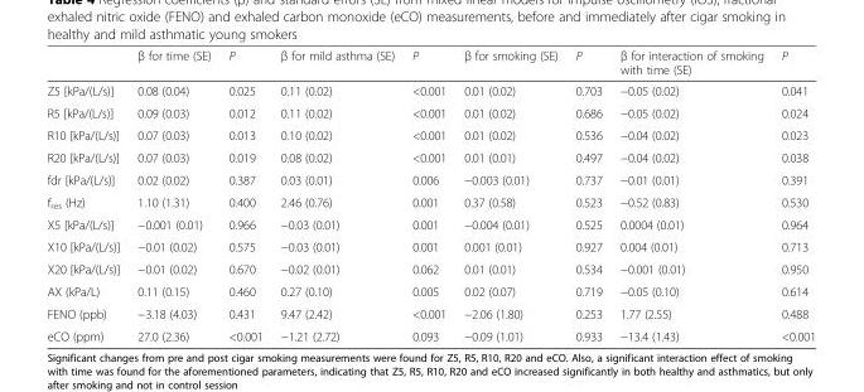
<table><thead><tr><td></td><td>β for time (SE)</td><td>P</td><td>β for mild asthma (SE)</td><td>P</td><td>β for smoking (SE)</td><td>P</td><td>β for interaction of smoking with time (SE)</td><td>P</td></tr></thead><tbody><tr><td>Z5 [kPa/(L/s)]</td><td>0.08 (0.04)</td><td>0.025</td><td>0.11 (0.02)</td><td>&lt;0.001</td><td>0.01 (0.02)</td><td>0.703</td><td>−0.05 (0.02)</td><td>0.041</td></tr><tr><td>R5 [kPa/(L/s)]</td><td>0.09 (0.03)</td><td>0.012</td><td>0.11 (0.02)</td><td>&lt;0.001</td><td>0.01 (0.02)</td><td>0.686</td><td>−0.05 (0.02)</td><td>0.024</td></tr><tr><td>R10 [kPa/(L/s)]</td><td>0.07 (0.03)</td><td>0.013</td><td>0.10 (0.02)</td><td>&lt;0.001</td><td>0.01 (0.02)</td><td>0.536</td><td>−0.04 (0.02)</td><td>0.023</td></tr><tr><td>R20 [kPa/(L/s)]</td><td>0.07 (0.03)</td><td>0.019</td><td>0.08 (0.02)</td><td>&lt;0.001</td><td>0.01 (0.01)</td><td>0.497</td><td>−0.04 (0.02)</td><td>0.038</td></tr><tr><td>fdr [kPa/(L/s)]</td><td>0.02 (0.02)</td><td>0.387</td><td>0.03 (0.01)</td><td>0.006</td><td>−0.003 (0.01)</td><td>0.737</td><td>−0.01 (0.01)</td><td>0.391</td></tr><tr><td>f<sub>res</sub> (Hz)</td><td>1.10 (1.31)</td><td>0.400</td><td>2.46 (0.76)</td><td>0.001</td><td>0.37 (0.58)</td><td>0.523</td><td>−0.52 (0.83)</td><td>0.530</td></tr><tr><td>X5 [kPa/(L/s)]</td><td>−0.001 (0.01)</td><td>0.966</td><td>−0.03 (0.01)</td><td>0.001</td><td>−0.004 (0.01)</td><td>0.525</td><td>0.0004 (0.01)</td><td>0.964</td></tr><tr><td>X10 [kPa/(L/s)]</td><td>−0.01 (0.02)</td><td>0.575</td><td>−0.03 (0.01)</td><td>0.001</td><td>0.001 (0.01)</td><td>0.927</td><td>0.004 (0.01)</td><td>0.713</td></tr><tr><td>X20 [kPa/(L/s)]</td><td>−0.01 (0.02)</td><td>0.670</td><td>−0.02 (0.01)</td><td>0.062</td><td>0.01 (0.01)</td><td>0.534</td><td>−0.001 (0.01)</td><td>0.950</td></tr><tr><td>AX (kPa/L)</td><td>0.11 (0.15)</td><td>0.460</td><td>0.27 (0.10)</td><td>0.005</td><td>0.02 (0.07)</td><td>0.719</td><td>−0.05 (0.10)</td><td>0.614</td></tr><tr><td>FENO (ppb)</td><td>−3.18 (4.03)</td><td>0.431</td><td>9.47 (2.42)</td><td>&lt;0.001</td><td>−2.06 (1.80)</td><td>0.253</td><td>1.77 (2.55)</td><td>0.488</td></tr><tr><td>eCO (ppm)</td><td>27.0 (2.36)</td><td>&lt;0.001</td><td>−1.21 (2.72)</td><td>0.093</td><td>−0.09 (1.01)</td><td>0.933</td><td>−13.4 (1.43)</td><td>&lt;0.001</td></tr></tbody></table>